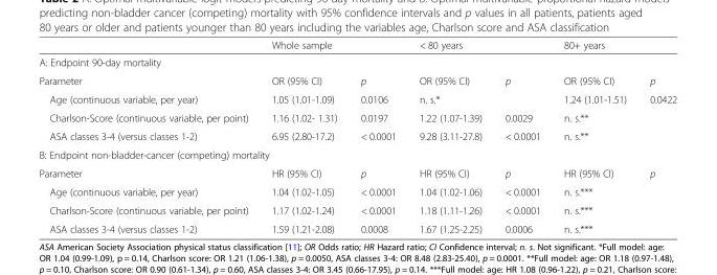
<table><thead><tr><td></td><td colspan="2">Whole sample</td><td colspan="2">&lt; 80 years</td><td colspan="2">80+ years</td></tr><tr><td colspan="7">A: Endpoint 90-day mortality</td></tr><tr><td>Parameter</td><td>OR (95% CI)</td><td>p</td><td>OR (95% CI)</td><td>p</td><td>OR (95% CI)</td><td>p</td></tr></thead><tbody><tr><td>Age (continuous variable, per year)</td><td>1.05 (1.01-1.09)</td><td>0.0106</td><td colspan="2">n. s.*</td><td>1.24 (1.01-1.51)</td><td>0.0422</td></tr><tr><td>Charlson-Score (continuous variable, per point)</td><td>1.16 (1.02- 1.31)</td><td>0.0197</td><td>1.22 (1.07-1.39)</td><td>0.0029</td><td colspan="2">n. s.**</td></tr><tr><td>ASA classes 3-4 (versus classes 1-2)</td><td>6.95 (2.80-17.2)</td><td>&lt; 0.0001</td><td>9.28 (3.11-27.8)</td><td>&lt; 0.0001</td><td colspan="2">n. s.**</td></tr><tr><td colspan="7">B: Endpoint non-bladder-cancer (competing) mortality</td></tr><tr><td>Parameter</td><td>HR (95% CI)</td><td>p</td><td>HR (95% CI)</td><td>p</td><td>HR (95% CI)</td><td>p</td></tr><tr><td>Age (continuous variable, per year)</td><td>1.04 (1.02-1.05)</td><td>&lt; 0.0001</td><td>1.04 (1.02-1.06)</td><td>&lt; 0.0001</td><td colspan="2">n. s.***</td></tr><tr><td>Charlson-Score (continuous variable, per point)</td><td>1.17 (1.02-1.24)</td><td>&lt; 0.0001</td><td>1.18 (1.11-1.26)</td><td>&lt; 0.0001</td><td colspan="2">n. s.***</td></tr><tr><td>ASA classes 3-4 (versus classes 1-2)</td><td>1.59 (1.21-2.08)</td><td>0.0008</td><td>1.67 (1.25-2.25)</td><td>0.0006</td><td colspan="2">n. s.***</td></tr></tbody></table>